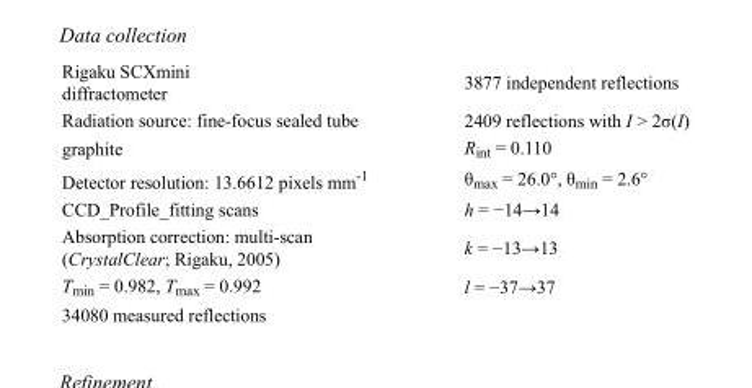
<table><tbody><tr><td>Rigaku SCXmini diffractometer</td><td>3877 independent reflections</td></tr><tr><td>Radiation source: fine-focus sealed tube</td><td>2409 reflections with I &gt; 2σ(I)</td></tr><tr><td>graphite</td><td>R<sub>int</sub> = 0.110</td></tr><tr><td>Detector resolution: 13.6612 pixels mm<sup>-1</sup></td><td>θ<sub>max</sub> = 26.0°, θ<sub>min</sub> = 2.6°</td></tr><tr><td>CCD_Profile_fitting scans</td><td>h = −14→14</td></tr><tr><td>Absorption correction: multi-scan (CrystalClear; Rigaku, 2005)</td><td>k = −13→13</td></tr><tr><td>T<sub>min</sub> = 0.982, T<sub>max</sub> = 0.992</td><td>l = −37→37</td></tr><tr><td>34080 measured reflections</td><td></td></tr></tbody></table>